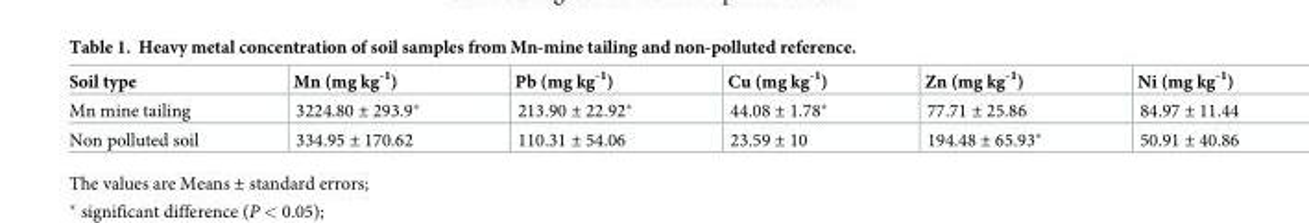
<table><thead><tr><td>Soil type</td><td>Mn (mg kg<sup>-1</sup>)</td><td>Pb (mg kg<sup>-1</sup>)</td><td>Cu (mg kg<sup>-1</sup>)</td><td>Zn (mg kg<sup>-1</sup>)</td><td>Ni (mg kg<sup>-1</sup>)</td></tr></thead><tbody><tr><td>Mn mine tailing</td><td>3224.80 ± 293.9*</td><td>213.90 ± 22.92*</td><td>44.08 ± 1.78*</td><td>77.71 ± 25.86</td><td>84.97 ± 11.44</td></tr><tr><td>Non polluted soil</td><td>334.95 ± 170.62</td><td>110.31 ± 54.06</td><td>23.59 ± 10</td><td>194.48 ± 65.93*</td><td>50.91 ± 40.86</td></tr></tbody></table>